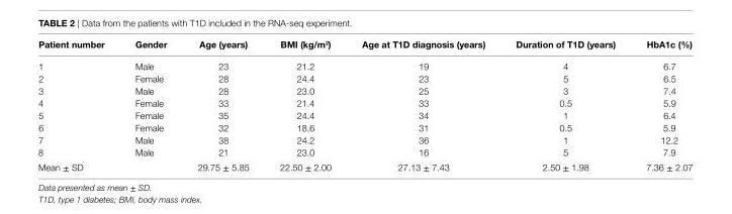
<table><thead><tr><td>Patient number</td><td>gender</td><td>age (years)</td><td>bMi (kg/m<sup>2</sup>)</td><td>age at T1D diagnosis (years)</td><td>Duration of T1D (years)</td><td>hba1c (%)</td></tr></thead><tbody><tr><td>1</td><td>Male</td><td>23</td><td>21.2</td><td>19</td><td>4</td><td>6.7</td></tr><tr><td>2</td><td>Female</td><td>28</td><td>24.4</td><td>23</td><td>5</td><td>6.5</td></tr><tr><td>3</td><td>Male</td><td>28</td><td>23.0</td><td>25</td><td>3</td><td>7.4</td></tr><tr><td>4</td><td>Female</td><td>33</td><td>21.4</td><td>33</td><td>0.5</td><td>5.9</td></tr><tr><td>5</td><td>Female</td><td>35</td><td>24.4</td><td>34</td><td>1</td><td>6.4</td></tr><tr><td>6</td><td>Female</td><td>32</td><td>18.6</td><td>31</td><td>0.5</td><td>5.9</td></tr><tr><td>7</td><td>Male</td><td>38</td><td>24.2</td><td>36</td><td>1</td><td>12.2</td></tr><tr><td>8</td><td>Male</td><td>21</td><td>23.0</td><td>16</td><td>5</td><td>7.9</td></tr><tr><td>Mean ± SD</td><td></td><td>29.75 ± 5.85</td><td>22.50 ± 2.00</td><td>27.13 ± 7.43</td><td>2.50 ± 1.98</td><td>7.36 ± 2.07</td></tr></tbody></table>